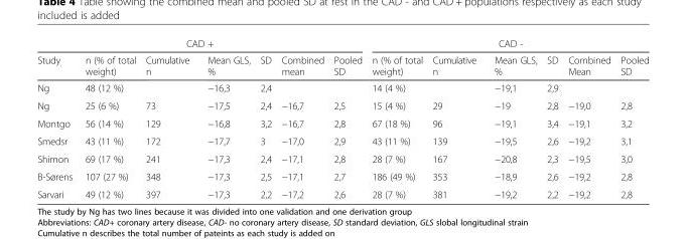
<table><thead><tr><td colspan="7">CAD +</td><td colspan="6">CAD -</td></tr><tr><td>Study</td><td>n (% of total weight)</td><td>Cumulative n</td><td>Mean GLS, %</td><td>SD</td><td>Combined mean</td><td>Pooled SD</td><td>n (% of total weight)</td><td>Cumulative n</td><td>Mean GLS, %</td><td>SD</td><td>Combined Mean</td><td>Pooled SD</td></tr></thead><tbody><tr><td>Ng</td><td>48 (12 %)</td><td></td><td>−16,3</td><td>2,4</td><td></td><td></td><td>14 (4 %)</td><td></td><td>−19,1</td><td>2,9</td><td></td><td></td></tr><tr><td>Ng</td><td>25 (6 %)</td><td>73</td><td>−17,5</td><td>2,4</td><td>−16,7</td><td>2,5</td><td>15 (4 %)</td><td>29</td><td>−19</td><td>2,8</td><td>−19,0</td><td>2,8</td></tr><tr><td>Montgo</td><td>56 (14 %)</td><td>129</td><td>−16,8</td><td>3,2</td><td>−16,7</td><td>2,8</td><td>67 (18 %)</td><td>96</td><td>−19,1</td><td>3,4</td><td>−19,1</td><td>3,2</td></tr><tr><td>Smedsr</td><td>43 (11 %)</td><td>172</td><td>−17,7</td><td>3</td><td>−17,0</td><td>2,9</td><td>43 (11 %)</td><td>139</td><td>−19,5</td><td>2,6</td><td>−19,2</td><td>3,1</td></tr><tr><td>Shimon</td><td>69 (17 %)</td><td>241</td><td>−17,3</td><td>2,4</td><td>−17,1</td><td>2,8</td><td>28 (7 %)</td><td>167</td><td>−20,8</td><td>2,3</td><td>−19,5</td><td>3,0</td></tr><tr><td>B-Sørens</td><td>107 (27 %)</td><td>348</td><td>−17,3</td><td>2,5</td><td>−17,1</td><td>2,7</td><td>186 (49 %)</td><td>353</td><td>−18,9</td><td>2,6</td><td>−19,2</td><td>2,8</td></tr><tr><td>Sarvari</td><td>49 (12 %)</td><td>397</td><td>−17,3</td><td>2,2</td><td>−17,2</td><td>2,6</td><td>28 (7 %)</td><td>381</td><td>−19,2</td><td>2,2</td><td>−19,2</td><td>2,8</td></tr></tbody></table>